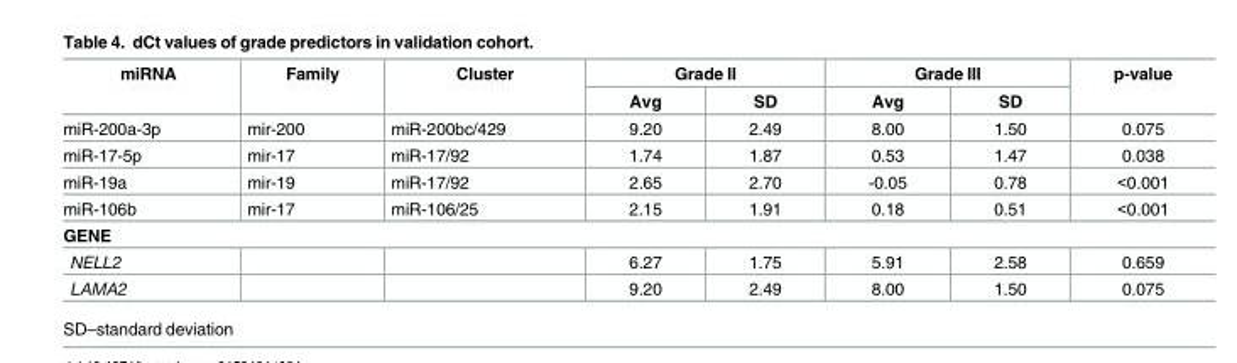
<table><thead><tr><td rowspan="2">miRNA</td><td rowspan="2">Family</td><td rowspan="2">Cluster</td><td colspan="2">Grade II</td><td colspan="2">Grade III</td><td rowspan="2">p-value</td></tr><tr><td>Avg</td><td>SD</td><td>Avg</td><td>SD</td></tr></thead><tbody><tr><td>miR-200a-3p</td><td>mir-200</td><td>miR-200bc/429</td><td>9.20</td><td>2.49</td><td>8.00</td><td>1.50</td><td>0.075</td></tr><tr><td>miR-17-5p</td><td>mir-17</td><td>miR-17/92</td><td>1.74</td><td>1.87</td><td>0.53</td><td>1.47</td><td>0.038</td></tr><tr><td>miR-19a</td><td>mir-19</td><td>miR-17/92</td><td>2.65</td><td>2.70</td><td>-0.05</td><td>0.78</td><td>&lt;0.001</td></tr><tr><td>miR-106b</td><td>mir-17</td><td>miR-106/25</td><td>2.15</td><td>1.91</td><td>0.18</td><td>0.51</td><td>&lt;0.001</td></tr><tr><td colspan="8">GENE</td></tr><tr><td>NELL2</td><td></td><td></td><td>6.27</td><td>1.75</td><td>5.91</td><td>2.58</td><td>0.659</td></tr><tr><td>LAMA2</td><td></td><td></td><td>9.20</td><td>2.49</td><td>8.00</td><td>1.50</td><td>0.075</td></tr></tbody></table>